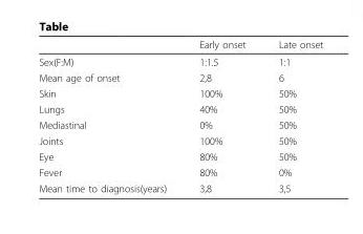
<table><thead><tr><td></td><td>Early onset</td><td>Late onset</td></tr></thead><tbody><tr><td>Sex(F:M)</td><td>1:1.5</td><td>1:1</td></tr><tr><td>Mean age of onset</td><td>2,8</td><td>6</td></tr><tr><td>Skin</td><td>100%</td><td>50%</td></tr><tr><td>Lungs</td><td>40%</td><td>50%</td></tr><tr><td>Mediastinal</td><td>0%</td><td>50%</td></tr><tr><td>Joints</td><td>100%</td><td>50%</td></tr><tr><td>Eye</td><td>80%</td><td>50%</td></tr><tr><td>Fever</td><td>80%</td><td>0%</td></tr><tr><td>Mean time to diagnosis(years)</td><td>3,8</td><td>3,5</td></tr></tbody></table>